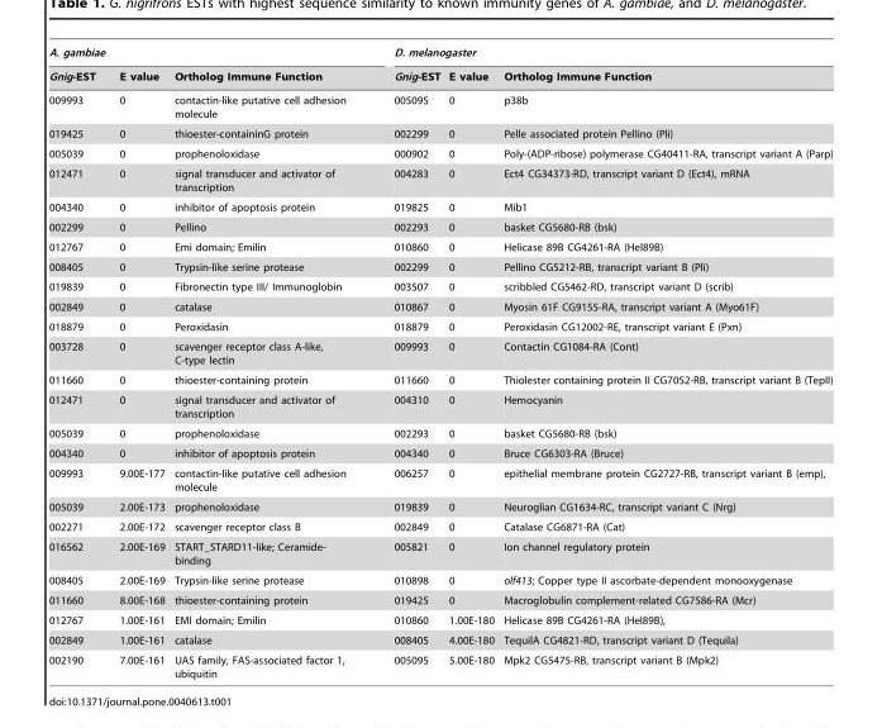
<table><thead><tr><td colspan="3">A. gambiae</td><td colspan="3">D. melanogaster</td></tr><tr><td>Gnig-EST</td><td>E value</td><td>Ortholog Immune Function</td><td>Gnig-EST</td><td>E value</td><td>Ortholog Immune Function</td></tr></thead><tbody><tr><td>009993</td><td>0</td><td>contactin-like putative cell adhesion molecule</td><td>005095</td><td>0</td><td>p38b</td></tr><tr><td>019425</td><td>0</td><td>thioester-containinG protein</td><td>002299</td><td>0</td><td>Pelle associated protein Pellino (Pli)</td></tr><tr><td>005039</td><td>0</td><td>prophenoloxidase</td><td>000902</td><td>0</td><td>Poly-(ADP-ribose) polymerase CG40411-RA, transcript variant A (Parp)</td></tr><tr><td>012471</td><td>0</td><td>signal transducer and activator of transcription</td><td>004283</td><td>0</td><td>Ect4 CG34373-RD, transcript variant D (Ect4), mRNA</td></tr><tr><td>004340</td><td>0</td><td>inhibitor of apoptosis protein</td><td>019825</td><td>0</td><td>Mib1</td></tr><tr><td>002299</td><td>0</td><td>Pellino</td><td>002293</td><td>0</td><td>basket CG5680-RB (bsk)</td></tr><tr><td>012767</td><td>0</td><td>Emi domain; Emilin</td><td>010860</td><td>0</td><td>Helicase 89B CG4261-RA (Hel89B)</td></tr><tr><td>008405</td><td>0</td><td>Trypsin-like serine protease</td><td>002299</td><td>0</td><td>Pellino CG5212-RB, transcript variant B (Pli)</td></tr><tr><td>019839</td><td>0</td><td>Fibronectin type III/ Immunoglobin</td><td>003507</td><td>0</td><td>scribbled CG5462-RD, transcript variant D (scrib)</td></tr><tr><td>002849</td><td>0</td><td>catalase</td><td>010867</td><td>0</td><td>Myosin 61F CG9155-RA, transcript variant A (Myo61F)</td></tr><tr><td>018879</td><td>0</td><td>Peroxidasin</td><td>018879</td><td>0</td><td>Peroxidasin CG12002-RE, transcript variant E (Pxn)</td></tr><tr><td>003728</td><td>0</td><td>scavenger receptor class A-like, C-type lectin</td><td>009993</td><td>0</td><td>Contactin CG1084-RA (Cont)</td></tr><tr><td>011660</td><td>0</td><td>thioester-containing protein</td><td>011660</td><td>0</td><td>Thiolester containing protein II CG7052-RB, transcript variant B (TepII)</td></tr><tr><td>012471</td><td>0</td><td>signal transducer and activator of transcription</td><td>004310</td><td>0</td><td>Hemocyanin</td></tr><tr><td>005039</td><td>0</td><td>prophenoloxidase</td><td>002293</td><td>0</td><td>basket CG5680-RB (bsk)</td></tr><tr><td>004340</td><td>0</td><td>inhibitor of apoptosis protein</td><td>004340</td><td>0</td><td>Bruce CG6303-RA (Bruce)</td></tr><tr><td>009993</td><td>9.00E-177</td><td>contactin-like putative cell adhesion molecule</td><td>006257</td><td>0</td><td>epithelial membrane protein CG2727-RB, transcript variant B (emp),</td></tr><tr><td>005039</td><td>2.00E-173</td><td>prophenoloxidase</td><td>019839</td><td>0</td><td>Neuroglian CG1634-RC, transcript variant C (Nrg)</td></tr><tr><td>002271</td><td>2.00E-172</td><td>scavenger receptor class B</td><td>002849</td><td>0</td><td>Catalase CG6871-RA (Cat)</td></tr><tr><td>016562</td><td>2.00E-169</td><td>START_STARD11-like; Ceramide- binding</td><td>005821</td><td>0</td><td>Ion channel regulatory protein</td></tr><tr><td>008405</td><td>2.00E-169</td><td>Trypsin-like serine protease</td><td>010898</td><td>0</td><td>olf413; Copper type II ascorbate-dependent monooxygenase</td></tr><tr><td>011660</td><td>8.00E-168</td><td>thioester-containing protein</td><td>019425</td><td>0</td><td>Macroglobulin complement-related CG7586-RA (Mcr)</td></tr><tr><td>012767</td><td>1.00E-161</td><td>EMI domain; Emilin</td><td>010860</td><td>1.00E-180</td><td>Helicase 89B CG4261-RA (Hel89B),</td></tr><tr><td>002849</td><td>1.00E-161</td><td>catalase</td><td>008405</td><td>4.00E-180</td><td>TequilA CG4821-RD, transcript variant D (Tequila)</td></tr><tr><td>002190</td><td>7.00E-161</td><td>UAS family, FAS-associated factor 1, ubiquitin</td><td>005095</td><td>5.00E-180</td><td>Mpk2 CG5475-RB, transcript variant B (Mpk2)</td></tr></tbody></table>